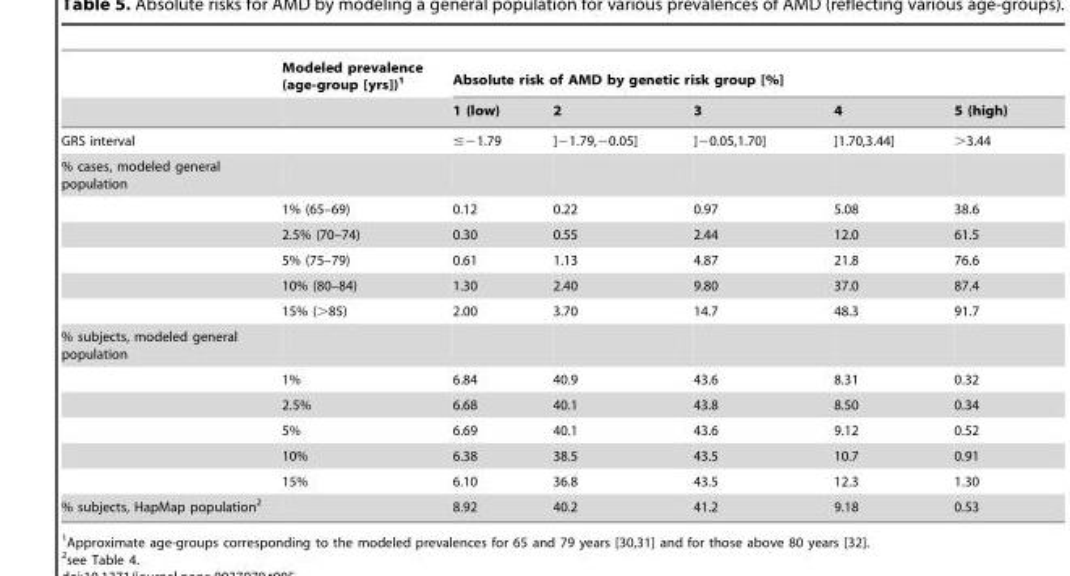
<table><thead><tr><td rowspan="2"></td><td rowspan="2">Modeled prevalence (age-group [yrs])<sup>1</sup></td><td colspan="5">Absolute risk of AMD by genetic risk group [%]</td></tr><tr><td>1 (low)</td><td>2</td><td>3</td><td>4</td><td>5 (high)</td></tr></thead><tbody><tr><td>GRS interval</td><td></td><td>≤−1.79</td><td>]−1.79,−0.05]</td><td>]−0.05,1.70]</td><td>]1.70,3.44]</td><td>&gt;3.44</td></tr><tr><td colspan="7">% cases, modeled general population</td></tr><tr><td></td><td>1% (65–69)</td><td>0.12</td><td>0.22</td><td>0.97</td><td>5.08</td><td>38.6</td></tr><tr><td></td><td>2.5% (70–74)</td><td>0.30</td><td>0.55</td><td>2.44</td><td>12.0</td><td>61.5</td></tr><tr><td></td><td>5% (75–79)</td><td>0.61</td><td>1.13</td><td>4.87</td><td>21.8</td><td>76.6</td></tr><tr><td></td><td>10% (80–84)</td><td>1.30</td><td>2.40</td><td>9.80</td><td>37.0</td><td>87.4</td></tr><tr><td></td><td>15% (&gt;85)</td><td>2.00</td><td>3.70</td><td>14.7</td><td>48.3</td><td>91.7</td></tr><tr><td colspan="7">% subjects, modeled general population</td></tr><tr><td></td><td>1%</td><td>6.84</td><td>40.9</td><td>43.6</td><td>8.31</td><td>0.32</td></tr><tr><td></td><td>2.5%</td><td>6.68</td><td>40.1</td><td>43.8</td><td>8.50</td><td>0.34</td></tr><tr><td></td><td>5%</td><td>6.69</td><td>40.1</td><td>43.6</td><td>9.12</td><td>0.52</td></tr><tr><td></td><td>10%</td><td>6.38</td><td>38.5</td><td>43.5</td><td>10.7</td><td>0.91</td></tr><tr><td></td><td>15%</td><td>6.10</td><td>36.8</td><td>43.5</td><td>12.3</td><td>1.30</td></tr><tr><td>% subjects, HapMap population<sup>2</sup></td><td></td><td>8.92</td><td>40.2</td><td>41.2</td><td>9.18</td><td>0.53</td></tr></tbody></table>